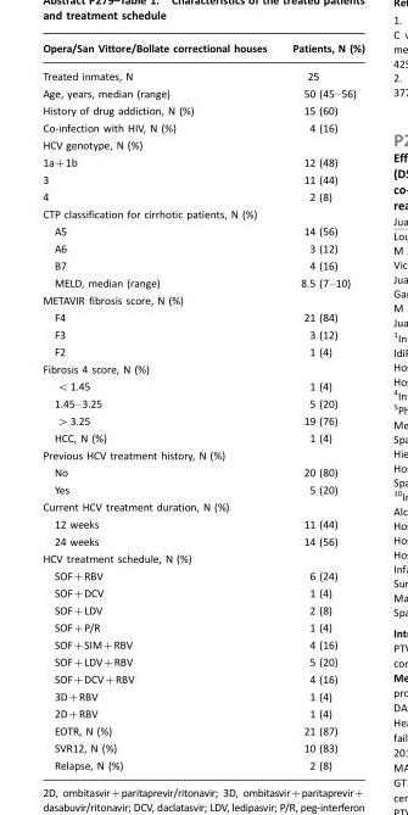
<table><thead><tr><td>Opera/San Vittore/Bollate correctional houses</td><td>Patients, N (%)</td></tr></thead><tbody><tr><td>Treated inmates, N</td><td>25</td></tr><tr><td>Age, years, median (range)</td><td>50 (45–56)</td></tr><tr><td>History of drug addiction, N (%)</td><td>15 (60)</td></tr><tr><td>Co-infection with HIV, N (%)</td><td>4 (16)</td></tr><tr><td colspan="2">HCV genotype, N (%)</td></tr><tr><td>1a+1b</td><td>12 (48)</td></tr><tr><td>3</td><td>11 (44)</td></tr><tr><td>4</td><td>2 (8)</td></tr><tr><td colspan="2">CTP classification for cirrhotic patients, N (%)</td></tr><tr><td>A5</td><td>14 (56)</td></tr><tr><td>A6</td><td>3 (12)</td></tr><tr><td>B7</td><td>4 (16)</td></tr><tr><td>MELD, median (range)</td><td>8.5 (7–10)</td></tr><tr><td colspan="2">METAVIR fibrosis score, N (%)</td></tr><tr><td>F4</td><td>21 (84)</td></tr><tr><td>F3</td><td>3 (12)</td></tr><tr><td>F2</td><td>1 (4)</td></tr><tr><td colspan="2">Fibrosis 4 score, N (%)</td></tr><tr><td>&lt;1.45</td><td>1 (4)</td></tr><tr><td>1.45–3.25</td><td>5 (20)</td></tr><tr><td>&gt;3.25</td><td>19 (76)</td></tr><tr><td>HCC, N (%)</td><td>1 (4)</td></tr><tr><td colspan="2">Previous HCV treatment history, N (%)</td></tr><tr><td>No</td><td>20 (80)</td></tr><tr><td>Yes</td><td>5 (20)</td></tr><tr><td colspan="2">Current HCV treatment duration, N (%)</td></tr><tr><td>12 weeks</td><td>11 (44)</td></tr><tr><td>24 weeks</td><td>14 (56)</td></tr><tr><td colspan="2">HCV treatment schedule, N (%)</td></tr><tr><td>SOF+RBV</td><td>6 (24)</td></tr><tr><td>SOF+DCV</td><td>1 (4)</td></tr><tr><td>SOF+LDV</td><td>2 (8)</td></tr><tr><td>SOF+P/R</td><td>1 (4)</td></tr><tr><td>SOF+SIM+RBV</td><td>4 (16)</td></tr><tr><td>SOF+LDV+RBV</td><td>5 (20)</td></tr><tr><td>SOF+DCV+RBV</td><td>4 (16)</td></tr><tr><td>3D+RBV</td><td>1 (4)</td></tr><tr><td>2D+RBV</td><td>1 (4)</td></tr><tr><td>EOTR, N (%)</td><td>21 (87)</td></tr><tr><td>SVR12, N (%)</td><td>10 (83)</td></tr><tr><td>Relapse, N (%)</td><td>2 (8)</td></tr></tbody></table>